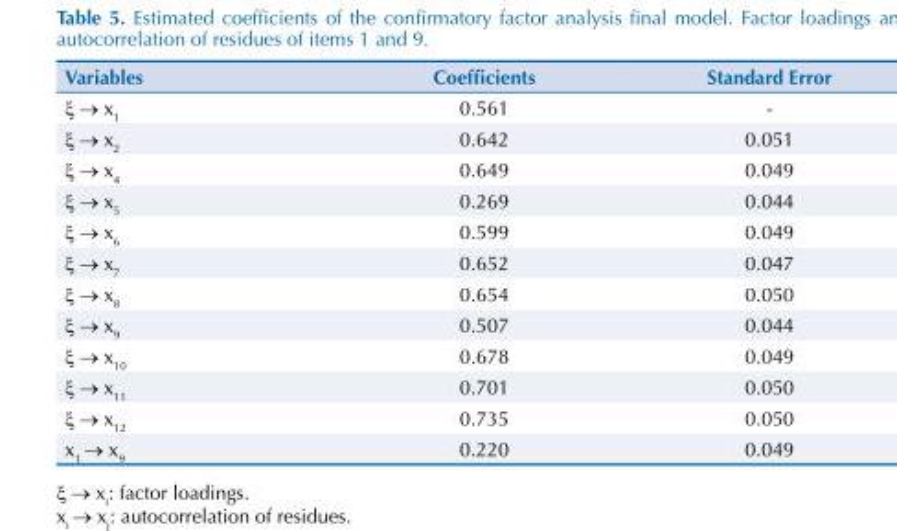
<table><thead><tr><td>Variables</td><td>Coefficients</td><td>Standard Error</td></tr></thead><tbody><tr><td>ξ → x<sub>1</sub></td><td>0.561</td><td>-</td></tr><tr><td>ξ → x<sub>2</sub></td><td>0.642</td><td>0.051</td></tr><tr><td>ξ → x<sub>4</sub></td><td>0.649</td><td>0.049</td></tr><tr><td>ξ → x<sub>5</sub></td><td>0.269</td><td>0.044</td></tr><tr><td>ξ → x<sub>6</sub></td><td>0.599</td><td>0.049</td></tr><tr><td>ξ → x<sub>7</sub></td><td>0.652</td><td>0.047</td></tr><tr><td>ξ → x<sub>8</sub></td><td>0.654</td><td>0.050</td></tr><tr><td>ξ → x<sub>9</sub></td><td>0.507</td><td>0.044</td></tr><tr><td>ξ → x<sub>10</sub></td><td>0.678</td><td>0.049</td></tr><tr><td>ξ → x<sub>11</sub></td><td>0.701</td><td>0.050</td></tr><tr><td>ξ → x<sub>12</sub></td><td>0.735</td><td>0.050</td></tr><tr><td>x<sub>1</sub> → x<sub>9</sub></td><td>0.220</td><td>0.049</td></tr></tbody></table>